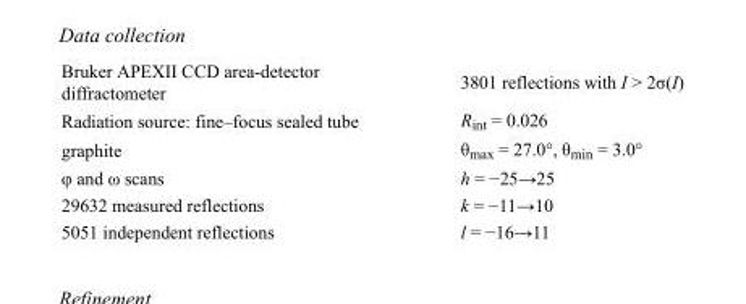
<table><tbody><tr><td>Bruker APEXII CCD area-detector diffractometer</td><td>3801 reflections with I &gt; 2σ(I)</td></tr><tr><td>Radiation source: fine–focus sealed tube</td><td>R<sub>int</sub> = 0.026</td></tr><tr><td>graphite</td><td>θ<sub>max</sub> = 27.0°, θ<sub>min</sub> = 3.0°</td></tr><tr><td>φ and ω scans</td><td>h = −25→25</td></tr><tr><td>29632 measured reflections</td><td>k = −11→10</td></tr><tr><td>5051 independent reflections</td><td>l = −16→11</td></tr></tbody></table>